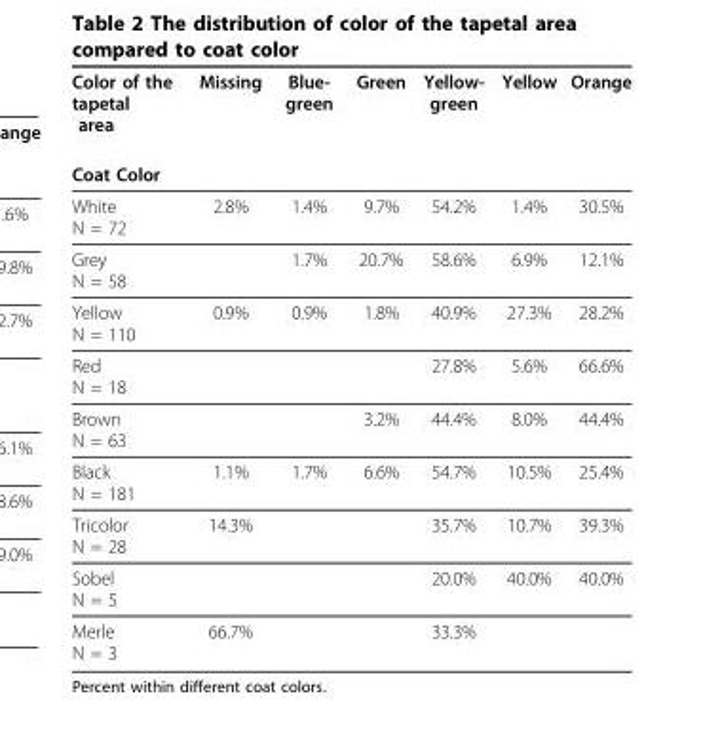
<table><thead><tr><td>Color of the tapetal area</td><td>Missing</td><td>Blue- green</td><td>Green</td><td>Yellow- green</td><td>Yellow</td><td>Orange</td></tr><tr><td colspan="7">Coat Color</td></tr></thead><tbody><tr><td>White N = 72</td><td>2.8%</td><td>1.4%</td><td>9.7%</td><td>54.2%</td><td>1.4%</td><td>30.5%</td></tr><tr><td>Grey N = 58</td><td></td><td>1.7%</td><td>20.7%</td><td>58.6%</td><td>6.9%</td><td>12.1%</td></tr><tr><td>Yellow N = 110</td><td>0.9%</td><td>0.9%</td><td>1.8%</td><td>40.9%</td><td>27.3%</td><td>28.2%</td></tr><tr><td>Red N = 18</td><td></td><td></td><td></td><td>27.8%</td><td>5.6%</td><td>66.6%</td></tr><tr><td>Brown N = 63</td><td></td><td></td><td>3.2%</td><td>44.4%</td><td>8.0%</td><td>44.4%</td></tr><tr><td>Black N = 181</td><td>1.1%</td><td>1.7%</td><td>6.6%</td><td>54.7%</td><td>10.5%</td><td>25.4%</td></tr><tr><td>Tricolor N = 28</td><td>14.3%</td><td></td><td></td><td>35.7%</td><td>10.7%</td><td>39.3%</td></tr><tr><td>Sobel N = 5</td><td></td><td></td><td></td><td>20.0%</td><td>40.0%</td><td>40.0%</td></tr><tr><td>Merle N = 3</td><td>66.7%</td><td></td><td></td><td>33.3%</td><td></td><td></td></tr></tbody></table>